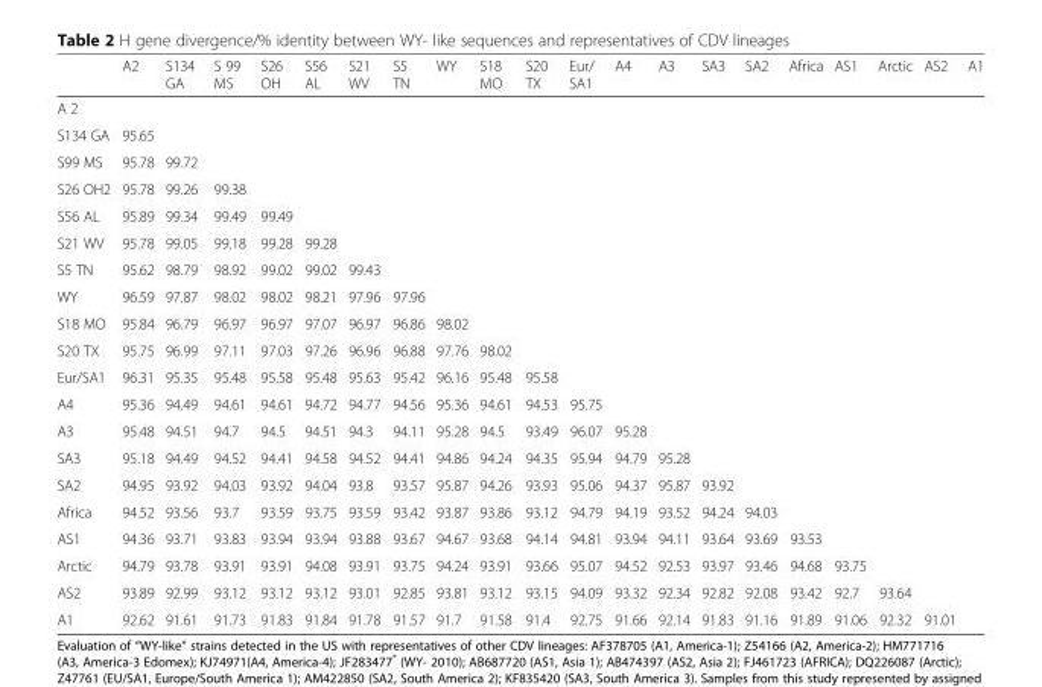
<table><thead><tr><td></td><td>A2</td><td>S134 GA</td><td>S 99 MS</td><td>S26 OH</td><td>S56 AL</td><td>S21 WV</td><td>S5 TN</td><td>WY</td><td>S18 MO</td><td>S20 TX</td><td>Eur/ SA1</td><td>A4</td><td>A3</td><td>SA3</td><td>SA2</td><td>Africa</td><td>AS1</td><td>Arctic</td><td>AS2</td><td>A1</td></tr></thead><tbody><tr><td colspan="21">A 2</td></tr><tr><td>S134 GA</td><td>95.65</td><td></td><td></td><td></td><td></td><td></td><td></td><td></td><td></td><td></td><td></td><td></td><td></td><td></td><td></td><td></td><td></td><td></td><td></td><td></td></tr><tr><td>S99 MS</td><td>95.78</td><td>99.72</td><td></td><td></td><td></td><td></td><td></td><td></td><td></td><td></td><td></td><td></td><td></td><td></td><td></td><td></td><td></td><td></td><td></td><td></td></tr><tr><td>S26 OH2</td><td>95.78</td><td>99.26</td><td>99.38</td><td></td><td></td><td></td><td></td><td></td><td></td><td></td><td></td><td></td><td></td><td></td><td></td><td></td><td></td><td></td><td></td><td></td></tr><tr><td>S56 AL</td><td>95.89</td><td>99.34</td><td>99.49</td><td>99.49</td><td></td><td></td><td></td><td></td><td></td><td></td><td></td><td></td><td></td><td></td><td></td><td></td><td></td><td></td><td></td><td></td></tr><tr><td>S21 WV</td><td>95.78</td><td>99.05</td><td>99.18</td><td>99.28</td><td>99.28</td><td></td><td></td><td></td><td></td><td></td><td></td><td></td><td></td><td></td><td></td><td></td><td></td><td></td><td></td><td></td></tr><tr><td>S5 TN</td><td>95.62</td><td>98.79</td><td>98.92</td><td>99.02</td><td>99.02</td><td>99.43</td><td></td><td></td><td></td><td></td><td></td><td></td><td></td><td></td><td></td><td></td><td></td><td></td><td></td><td></td></tr><tr><td>WY</td><td>96.59</td><td>97.87</td><td>98.02</td><td>98.02</td><td>98.21</td><td>97.96</td><td>97.96</td><td></td><td></td><td></td><td></td><td></td><td></td><td></td><td></td><td></td><td></td><td></td><td></td><td></td></tr><tr><td>S18 MO</td><td>95.84</td><td>96.79</td><td>96.97</td><td>96.97</td><td>97.07</td><td>96.97</td><td>96.86</td><td>98.02</td><td></td><td></td><td></td><td></td><td></td><td></td><td></td><td></td><td></td><td></td><td></td><td></td></tr><tr><td>S20 TX</td><td>95.75</td><td>96.99</td><td>97.11</td><td>97.03</td><td>97.26</td><td>96.96</td><td>96.88</td><td>97.76</td><td>98.02</td><td></td><td></td><td></td><td></td><td></td><td></td><td></td><td></td><td></td><td></td><td></td></tr><tr><td>Eur/SA1</td><td>96.31</td><td>95.35</td><td>95.48</td><td>95.58</td><td>95.48</td><td>95.63</td><td>95.42</td><td>96.16</td><td>95.48</td><td>95.58</td><td></td><td></td><td></td><td></td><td></td><td></td><td></td><td></td><td></td><td></td></tr><tr><td>A4</td><td>95.36</td><td>94.49</td><td>94.61</td><td>94.61</td><td>94.72</td><td>94.77</td><td>94.56</td><td>95.36</td><td>94.61</td><td>94.53</td><td>95.75</td><td></td><td></td><td></td><td></td><td></td><td></td><td></td><td></td><td></td></tr><tr><td>A3</td><td>95.48</td><td>94.51</td><td>94.7</td><td>94.5</td><td>94.51</td><td>94.3</td><td>94.11</td><td>95.28</td><td>94.5</td><td>93.49</td><td>96.07</td><td>95.28</td><td></td><td></td><td></td><td></td><td></td><td></td><td></td><td></td></tr><tr><td>SA3</td><td>95.18</td><td>94.49</td><td>94.52</td><td>94.41</td><td>94.58</td><td>94.52</td><td>94.41</td><td>94.86</td><td>94.24</td><td>94.35</td><td>95.94</td><td>94.79</td><td>95.28</td><td></td><td></td><td></td><td></td><td></td><td></td><td></td></tr><tr><td>SA2</td><td>94.95</td><td>93.92</td><td>94.03</td><td>93.92</td><td>94.04</td><td>93.8</td><td>93.57</td><td>95.87</td><td>94.26</td><td>93.93</td><td>95.06</td><td>94.37</td><td>95.87</td><td>93.92</td><td></td><td></td><td></td><td></td><td></td><td></td></tr><tr><td>Africa</td><td>94.52</td><td>93.56</td><td>93.7</td><td>93.59</td><td>93.75</td><td>93.59</td><td>93.42</td><td>93.87</td><td>93.86</td><td>93.12</td><td>94.79</td><td>94.19</td><td>93.52</td><td>94.24</td><td>94.03</td><td></td><td></td><td></td><td></td><td></td></tr><tr><td>AS1</td><td>94.36</td><td>93.71</td><td>93.83</td><td>93.94</td><td>93.94</td><td>93.88</td><td>93.67</td><td>94.67</td><td>93.68</td><td>94.14</td><td>94.81</td><td>93.94</td><td>94.11</td><td>93.64</td><td>93.69</td><td>93.53</td><td></td><td></td><td></td><td></td></tr><tr><td>Arctic</td><td>94.79</td><td>93.78</td><td>93.91</td><td>93.91</td><td>94.08</td><td>93.91</td><td>93.75</td><td>94.24</td><td>93.91</td><td>93.66</td><td>95.07</td><td>94.52</td><td>92.53</td><td>93.97</td><td>93.46</td><td>94.68</td><td>93.75</td><td></td><td></td><td></td></tr><tr><td>AS2</td><td>93.89</td><td>92.99</td><td>93.12</td><td>93.12</td><td>93.12</td><td>93.01</td><td>92.85</td><td>93.81</td><td>93.12</td><td>93.15</td><td>94.09</td><td>93.32</td><td>92.34</td><td>92.82</td><td>92.08</td><td>93.42</td><td>92.7</td><td>93.64</td><td></td><td></td></tr><tr><td>A1</td><td>92.62</td><td>91.61</td><td>91.73</td><td>91.83</td><td>91.84</td><td>91.78</td><td>91.57</td><td>91.7</td><td>91.58</td><td>91.4</td><td>92.75</td><td>91.66</td><td>92.14</td><td>91.83</td><td>91.16</td><td>91.89</td><td>91.06</td><td>92.32</td><td>91.01</td><td></td></tr></tbody></table>